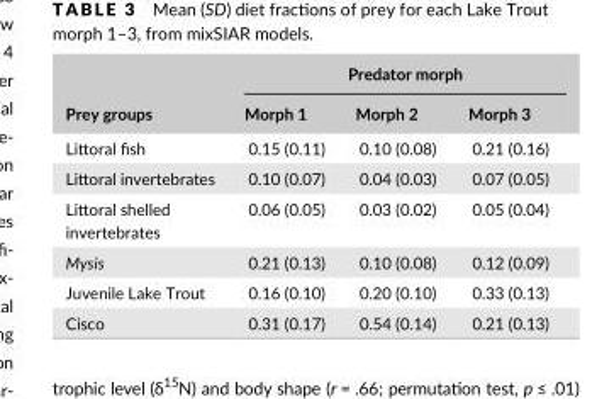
<table><thead><tr><td rowspan="2">Prey groups</td><td colspan="3">Predator morph</td></tr><tr><td>Morph 1</td><td>Morph 2</td><td>Morph 3</td></tr></thead><tbody><tr><td>Littoral fish</td><td>0.15 (0.11)</td><td>0.10 (0.08)</td><td>0.21 (0.16)</td></tr><tr><td>Littoral invertebrates</td><td>0.10 (0.07)</td><td>0.04 (0.03)</td><td>0.07 (0.05)</td></tr><tr><td>Littoral shelled invertebrates</td><td>0.06 (0.05)</td><td>0.03 (0.02)</td><td>0.05 (0.04)</td></tr><tr><td>Mysis</td><td>0.21 (0.13)</td><td>0.10 (0.08)</td><td>0.12 (0.09)</td></tr><tr><td>Juvenile Lake Trout</td><td>0.16 (0.10)</td><td>0.20 (0.10)</td><td>0.33 (0.13)</td></tr><tr><td>Cisco</td><td>0.31 (0.17)</td><td>0.54 (0.14)</td><td>0.21 (0.13)</td></tr></tbody></table>